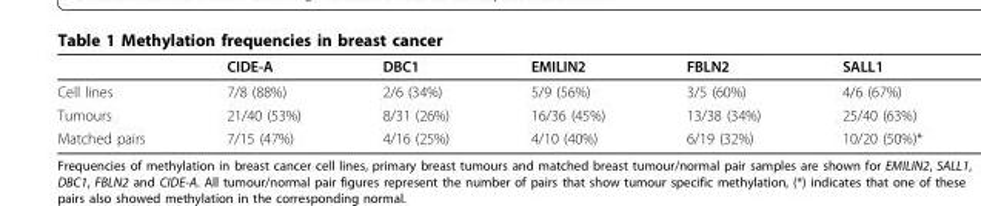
<table><thead><tr><td></td><td>CIDE-A</td><td>DBC1</td><td>EMILIN2</td><td>FBLN2</td><td>SALL1</td></tr></thead><tbody><tr><td>Cell lines</td><td>7/8 (88%)</td><td>2/6 (34%)</td><td>5/9 (56%)</td><td>3/5 (60%)</td><td>4/6 (67%)</td></tr><tr><td>Tumours</td><td>21/40 (53%)</td><td>8/31 (26%)</td><td>16/36 (45%)</td><td>13/38 (34%)</td><td>25/40 (63%)</td></tr><tr><td>Matched pairs</td><td>7/15 (47%)</td><td>4/16 (25%)</td><td>4/10 (40%)</td><td>6/19 (32%)</td><td>10/20 (50%)*</td></tr></tbody></table>